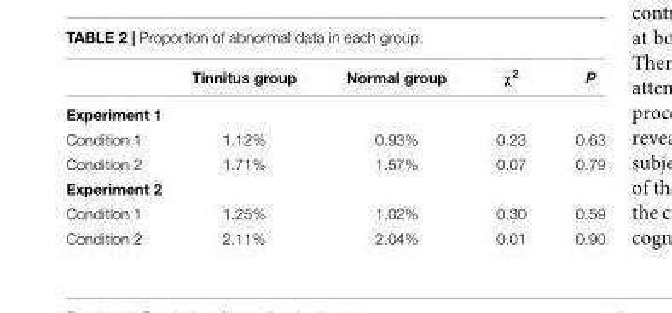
<table><thead><tr><td></td><td>Tinnitus group</td><td>Normal group</td><td>χ<sup>2</sup></td><td>P</td></tr></thead><tbody><tr><td colspan="5">Experiment 1</td></tr><tr><td>Condition 1</td><td>1.12%</td><td>0.93%</td><td>0.23</td><td>0.63</td></tr><tr><td>Condition 2</td><td>1.71%</td><td>1.57%</td><td>0.07</td><td>0.79</td></tr><tr><td colspan="5">Experiment 2</td></tr><tr><td>Condition 1</td><td>1.25%</td><td>1.02%</td><td>0.30</td><td>0.59</td></tr><tr><td>Condition 2</td><td>2.11%</td><td>2.04%</td><td>0.01</td><td>0.90</td></tr></tbody></table>